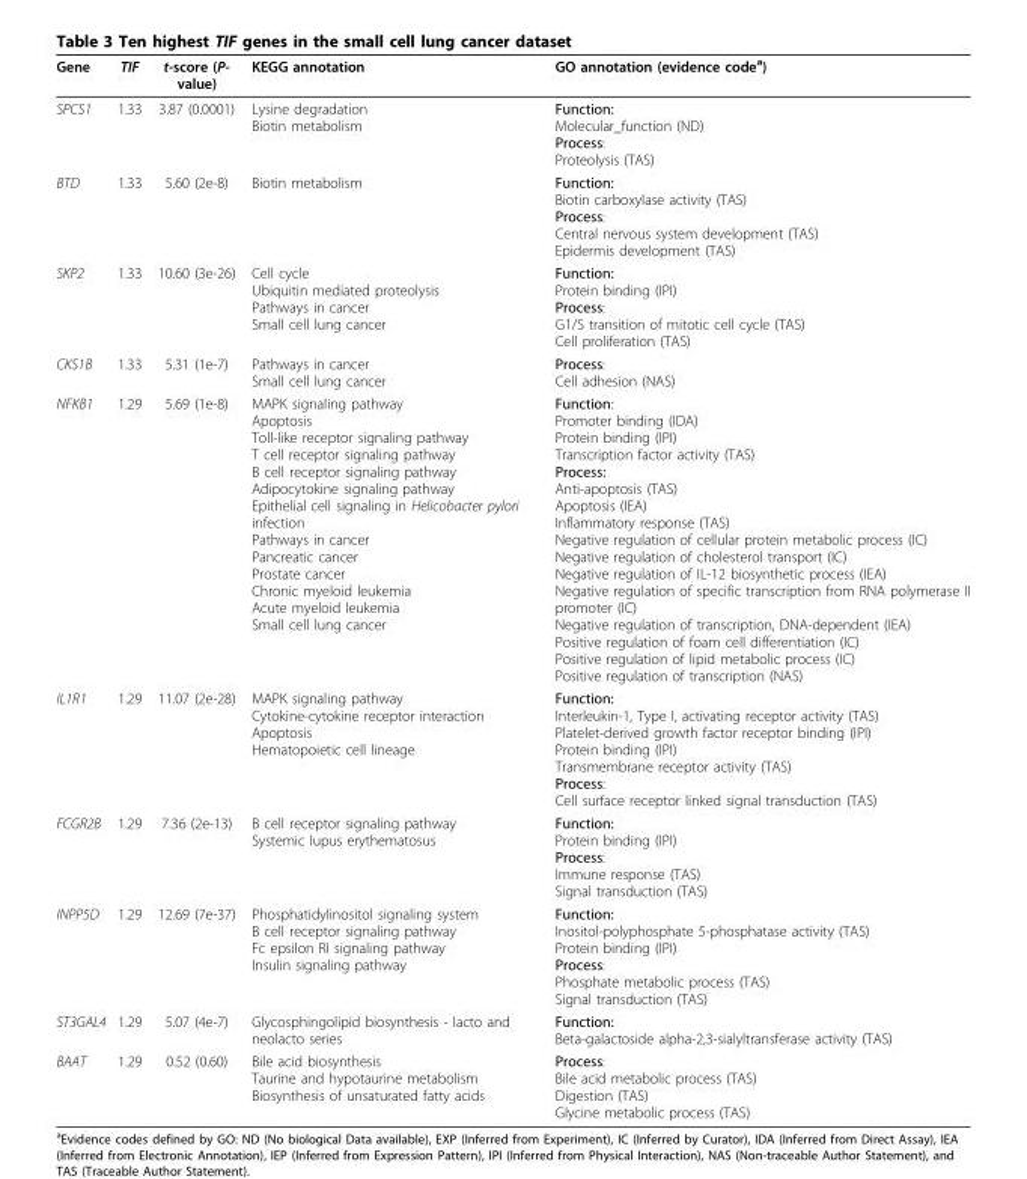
<table><thead><tr><td>Gene</td><td>TIF</td><td>t-score (P- value)</td><td>KEGG annotation</td><td>GO annotation (evidence code<sup>a</sup>)</td></tr></thead><tbody><tr><td>SPCS1</td><td>1.33</td><td>3.87 (0.0001)</td><td>Lysine degradation Biotin metabolism</td><td>Function: Molecular_function (ND) Process: Proteolysis (TAS)</td></tr><tr><td>BTD</td><td>1.33</td><td>5.60 (2e-8)</td><td>Biotin metabolism</td><td>Function: Biotin carboxylase activity (TAS) Process: Central nervous system development (TAS) Epidermis development (TAS)</td></tr><tr><td>SKP2</td><td>1.33</td><td>10.60 (3e-26)</td><td>Cell cycle Ubiquitin mediated proteolysis Pathways in cancer Small cell lung cancer</td><td>Function: Protein binding (IPI) Process: G1/S transition of mitotic cell cycle (TAS) Cell proliferation (TAS)</td></tr><tr><td>CKS1B</td><td>1.33</td><td>5.31 (1e-7)</td><td>Pathways in cancer Small cell lung cancer</td><td>Process: Cell adhesion (NAS)</td></tr><tr><td>NFKB1</td><td>1.29</td><td>5.69 (1e-8)</td><td>MAPK signaling pathway Apoptosis Toll-like receptor signaling pathway T cell receptor signaling pathway B cell receptor signaling pathway Adipocytokine signaling pathway Epithelial cell signaling in Helicobacter pylori infection Pathways in cancer Pancreatic cancer Prostate cancer Chronic myeloid leukemia Acute myeloid leukemia Small cell lung cancer</td><td>Function: Promoter binding (IDA) Protein binding (IPI) Transcription factor activity (TAS) Process: Anti-apoptosis (TAS) Apoptosis (IEA) Inflammatory response (TAS) Negative regulation of cellular protein metabolic process (IC) Negative regulation of cholesterol transport (IC) Negative regulation of IL-12 biosynthetic process (IEA) Negative regulation of specific transcription from RNA polymerase II promoter (IC) Negative regulation of transcription, DNA-dependent (IEA) Positive regulation of foam cell differentiation (IC) Positive regulation of lipid metabolic process (IC) Positive regulation of transcription (NAS)</td></tr><tr><td>IL1R1</td><td>1.29</td><td>11.07 (2e-28)</td><td>MAPK signaling pathway Cytokine-cytokine receptor interaction Apoptosis Hematopoietic cell lineage</td><td>Function: Interleukin-1, Type I, activating receptor activity (TAS) Platelet-derived growth factor receptor binding (IPI) Protein binding (IPI) Transmembrane receptor activity (TAS) Process: Cell surface receptor linked signal transduction (TAS)</td></tr><tr><td>FCGR2B</td><td>1.29</td><td>7.36 (2e-13)</td><td>B cell receptor signaling pathway Systemic lupus erythematosus</td><td>Function: Protein binding (IPI) Process: Immune response (TAS) Signal transduction (TAS)</td></tr><tr><td>INPP5D</td><td>1.29</td><td>12.69 (7e-37)</td><td>Phosphatidylinositol signaling system B cell receptor signaling pathway Fc epsilon RI signaling pathway Insulin signaling pathway</td><td>Function: Inositol-polyphosphate 5-phosphatase activity (TAS) Protein binding (IPI) Process: Phosphate metabolic process (TAS) Signal transduction (TAS)</td></tr><tr><td>ST3GAL4</td><td>1.29</td><td>5.07 (4e-7)</td><td>Glycosphingolipid biosynthesis - lacto and neolacto series</td><td>Function: Beta-galactoside alpha-2,3-sialyltransferase activity (TAS)</td></tr><tr><td>BAAT</td><td>1.29</td><td>0.52 (0.60)</td><td>Bile acid biosynthesis Taurine and hypotaurine metabolism Biosynthesis of unsaturated fatty acids</td><td>Process: Bile acid metabolic process (TAS) Digestion (TAS) Glycine metabolic process (TAS)</td></tr></tbody></table>